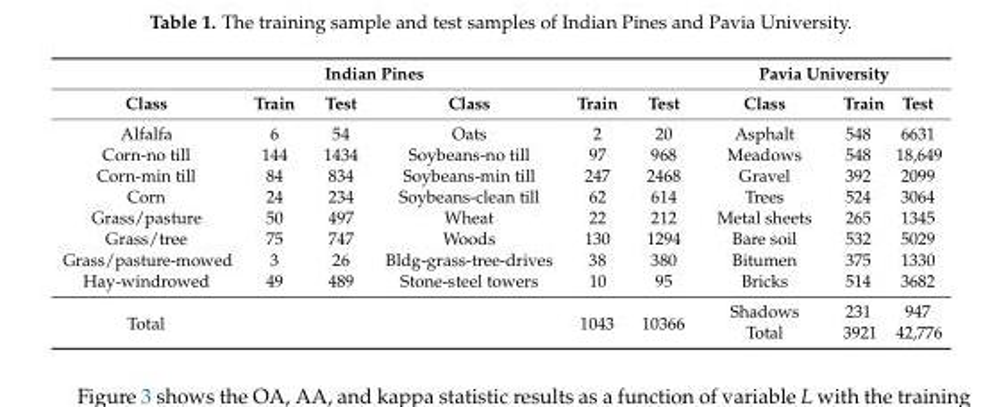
<table><thead><tr><td colspan="6">Indian Pines</td><td colspan="3">Pavia University</td></tr><tr><td>Class</td><td>Train</td><td>Test</td><td>Class</td><td>Train</td><td>Test</td><td>Class</td><td>Train</td><td>Test</td></tr></thead><tbody><tr><td>Alfalfa</td><td>6</td><td>54</td><td>Oats</td><td>2</td><td>20</td><td>Asphalt</td><td>548</td><td>6631</td></tr><tr><td>Corn-no till</td><td>144</td><td>1434</td><td>Soybeans-no till</td><td>97</td><td>968</td><td>Meadows</td><td>548</td><td>18,649</td></tr><tr><td>Corn-min till</td><td>84</td><td>834</td><td>Soybeans-min till</td><td>247</td><td>2468</td><td>Gravel</td><td>392</td><td>2099</td></tr><tr><td>Corn</td><td>24</td><td>234</td><td>Soybeans-clean till</td><td>62</td><td>614</td><td>Trees</td><td>524</td><td>3064</td></tr><tr><td>Grass/pasture</td><td>50</td><td>497</td><td>Wheat</td><td>22</td><td>212</td><td>Metal sheets</td><td>265</td><td>1345</td></tr><tr><td>Grass/tree</td><td>75</td><td>747</td><td>Woods</td><td>130</td><td>1294</td><td>Bare soil</td><td>532</td><td>5029</td></tr><tr><td>Grass/pasture-mowed</td><td>3</td><td>26</td><td>Bldg-grass-tree-drives</td><td>38</td><td>380</td><td>Bitumen</td><td>375</td><td>1330</td></tr><tr><td>Hay-windrowed</td><td>49</td><td>489</td><td>Stone-steel towers</td><td>10</td><td>95</td><td>Bricks</td><td>514</td><td>3682</td></tr><tr><td rowspan="2">Total</td><td rowspan="2"></td><td rowspan="2"></td><td rowspan="2"></td><td rowspan="2">1043</td><td rowspan="2">10366</td><td>Shadows</td><td>231</td><td>947</td></tr><tr><td>Total</td><td>3921</td><td>42,776</td></tr></tbody></table>